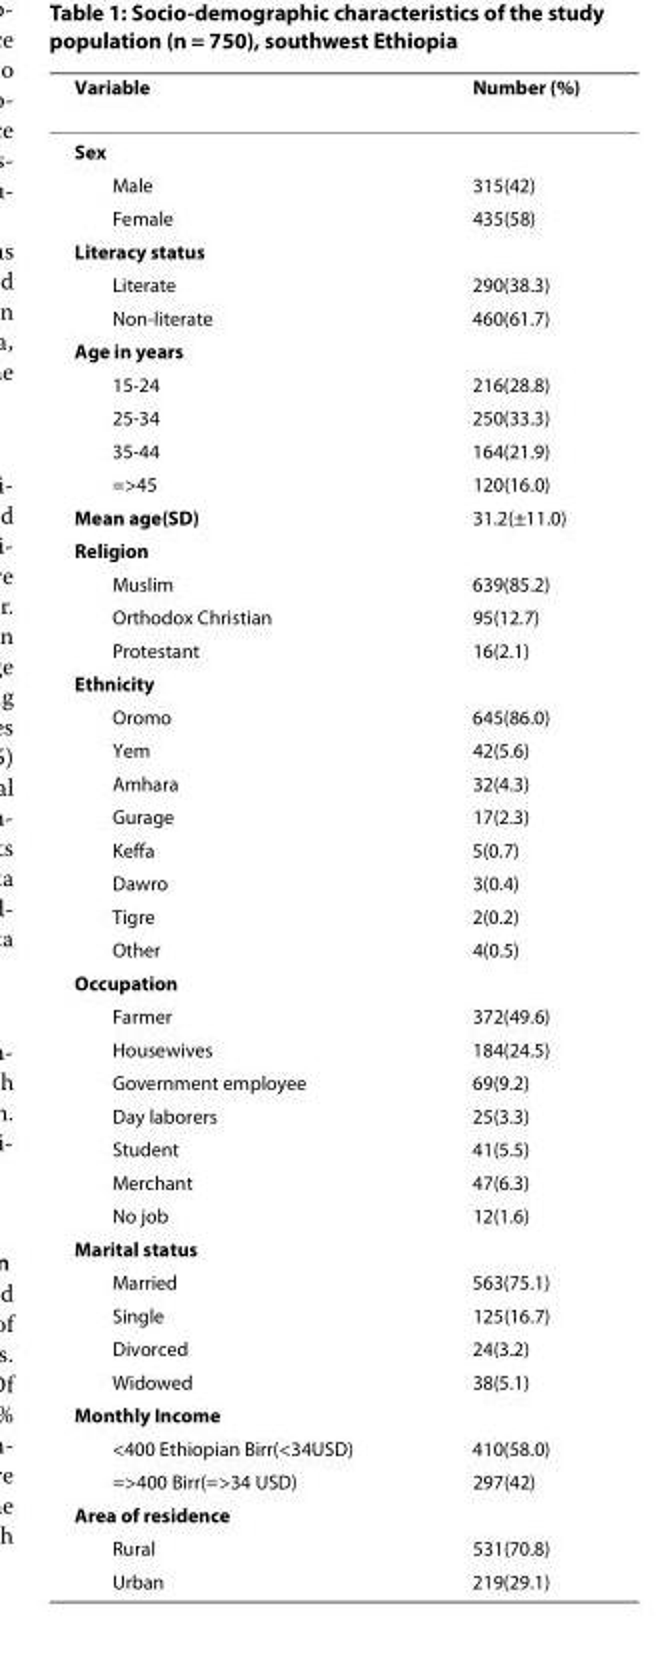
<table><thead><tr><td>Variable</td><td>Number (%)</td></tr></thead><tbody><tr><td colspan="2">Sex</td></tr><tr><td>Male</td><td>315(42)</td></tr><tr><td>Female</td><td>435(58)</td></tr><tr><td colspan="2">Literacy status</td></tr><tr><td>Literate</td><td>290(38.3)</td></tr><tr><td>Non-literate</td><td>460(61.7)</td></tr><tr><td colspan="2">Age in years</td></tr><tr><td>15-24</td><td>216(28.8)</td></tr><tr><td>25-34</td><td>250(33.3)</td></tr><tr><td>35-44</td><td>164(21.9)</td></tr><tr><td>=&gt;45</td><td>120(16.0)</td></tr><tr><td>Mean age(SD)</td><td>31.2(±11.0)</td></tr><tr><td colspan="2">Religion</td></tr><tr><td>Muslim</td><td>639(85.2)</td></tr><tr><td>Orthodox Christian</td><td>95(12.7)</td></tr><tr><td>Protestant</td><td>16(2.1)</td></tr><tr><td colspan="2">Ethnicity</td></tr><tr><td>Oromo</td><td>645(86.0)</td></tr><tr><td>Yem</td><td>42(5.6)</td></tr><tr><td>Amhara</td><td>32(4.3)</td></tr><tr><td>Gurage</td><td>17(2.3)</td></tr><tr><td>Keffa</td><td>5(0.7)</td></tr><tr><td>Dawro</td><td>3(0.4)</td></tr><tr><td>Tigre</td><td>2(0.2)</td></tr><tr><td>Other</td><td>4(0.5)</td></tr><tr><td colspan="2">Occupation</td></tr><tr><td>Farmer</td><td>372(49.6)</td></tr><tr><td>Housewives</td><td>184(24.5)</td></tr><tr><td>Government employee</td><td>69(9.2)</td></tr><tr><td>Day laborers</td><td>25(3.3)</td></tr><tr><td>Student</td><td>41(5.5)</td></tr><tr><td>Merchant</td><td>47(6.3)</td></tr><tr><td>No job</td><td>12(1.6)</td></tr><tr><td colspan="2">Marital status</td></tr><tr><td>Married</td><td>563(75.1)</td></tr><tr><td>Single</td><td>125(16.7)</td></tr><tr><td>Divorced</td><td>24(3.2)</td></tr><tr><td>Widowed</td><td>38(5.1)</td></tr><tr><td colspan="2">Monthly Income</td></tr><tr><td>&lt;400 Ethiopian Birr(&lt;34USD)</td><td>410(58.0)</td></tr><tr><td>=&gt;400 Birr(=&gt;34 USD)</td><td>297(42)</td></tr><tr><td colspan="2">Area of residence</td></tr><tr><td>Rural</td><td>531(70.8)</td></tr><tr><td>Urban</td><td>219(29.1)</td></tr></tbody></table>